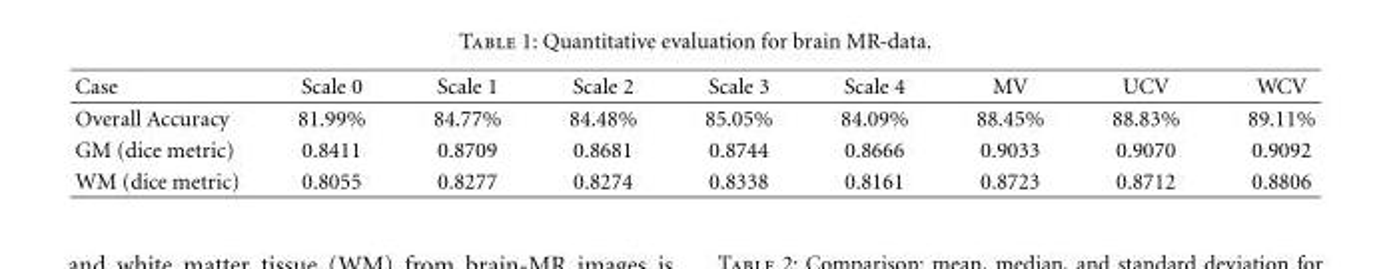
<table><thead><tr><td>Case</td><td>Scale 0</td><td>Scale 1</td><td>Scale 2</td><td>Scale 3</td><td>Scale 4</td><td>MV</td><td>UCV</td><td>WCV</td></tr></thead><tbody><tr><td>Overall Accuracy</td><td>81.99%</td><td>84.77%</td><td>84.48%</td><td>85.05%</td><td>84.09%</td><td>88.45%</td><td>88.83%</td><td>89.11%</td></tr><tr><td>GM (dice metric)</td><td>0.8411</td><td>0.8709</td><td>0.8681</td><td>0.8744</td><td>0.8666</td><td>0.9033</td><td>0.9070</td><td>0.9092</td></tr><tr><td>WM (dice metric)</td><td>0.8055</td><td>0.8277</td><td>0.8274</td><td>0.8338</td><td>0.8161</td><td>0.8723</td><td>0.8712</td><td>0.8806</td></tr></tbody></table>